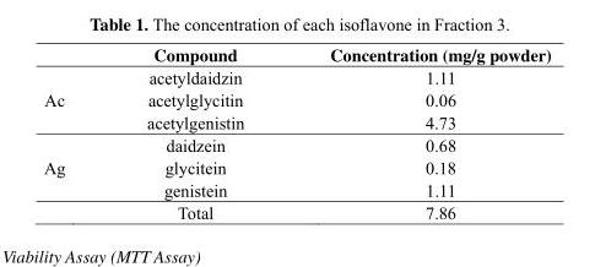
<table><thead><tr><td></td><td>Compound</td><td>Concentration (mg/g powder)</td></tr></thead><tbody><tr><td rowspan="3">Ac</td><td>acetyldaidzin</td><td>1.11</td></tr><tr><td>acetylglycitin</td><td>0.06</td></tr><tr><td>acetylgenistin</td><td>4.73</td></tr><tr><td rowspan="4">Ag</td><td>daidzein</td><td>0.68</td></tr><tr><td>glycitein</td><td>0.18</td></tr><tr><td>genistein</td><td>1.11</td></tr><tr><td>Total</td><td>7.86</td></tr></tbody></table>